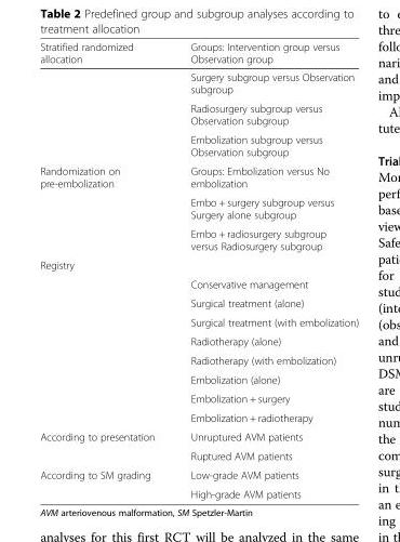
<table><thead><tr><td>Stratified randomized allocation</td><td>Groups: Intervention group versus Observation group</td></tr></thead><tbody><tr><td></td><td>Surgery subgroup versus Observation subgroup</td></tr><tr><td></td><td>Radiosurgery subgroup versus Observation subgroup</td></tr><tr><td></td><td>Embolization subgroup versus Observation subgroup</td></tr><tr><td rowspan="3">Randomization on pre-embolization</td><td>Groups: Embolization versus No embolization</td></tr><tr><td>Embo + surgery subgroup versus Surgery alone subgroup</td></tr><tr><td>Embo + radiosurgery subgroup versus Radiosurgery subgroup</td></tr><tr><td colspan="2">Registry</td></tr><tr><td></td><td>Conservative management</td></tr><tr><td></td><td>Surgical treatment (alone)</td></tr><tr><td></td><td>Surgical treatment (with embolization)</td></tr><tr><td></td><td>Radiotherapy (alone)</td></tr><tr><td></td><td>Radiotherapy (with embolization)</td></tr><tr><td></td><td>Embolization (alone)</td></tr><tr><td></td><td>Embolization + surgery</td></tr><tr><td></td><td>Embolization + radiotherapy</td></tr><tr><td rowspan="2">According to presentation</td><td>Unruptured AVM patients</td></tr><tr><td>Ruptured AVM patients</td></tr><tr><td rowspan="2">According to SM grading</td><td>Low-grade AVM patients</td></tr><tr><td>High-grade AVM patients</td></tr></tbody></table>